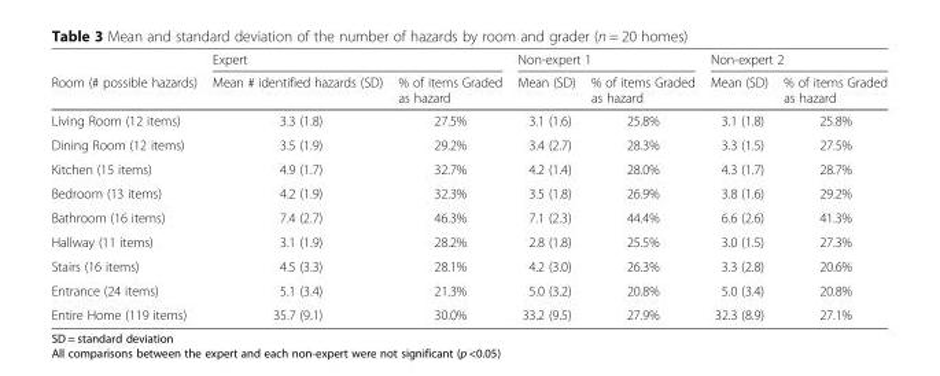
<table><thead><tr><td rowspan="2">Room (# possible hazards)</td><td colspan="2">Expert</td><td colspan="2">Non-expert 1</td><td colspan="2">Non-expert 2</td></tr><tr><td>Mean # identified hazards (SD)</td><td>% of items Graded as hazard</td><td>Mean (SD)</td><td>% of items Graded as hazard</td><td>Mean (SD)</td><td>% of items Graded as hazard</td></tr></thead><tbody><tr><td>Living Room (12 items)</td><td>3.3 (1.8)</td><td>27.5%</td><td>3.1 (1.6)</td><td>25.8%</td><td>3.1 (1.8)</td><td>25.8%</td></tr><tr><td>Dining Room (12 items)</td><td>3.5 (1.9)</td><td>29.2%</td><td>3.4 (2.7)</td><td>28.3%</td><td>3.3 (1.5)</td><td>27.5%</td></tr><tr><td>Kitchen (15 items)</td><td>4.9 (1.7)</td><td>32.7%</td><td>4.2 (1.4)</td><td>28.0%</td><td>4.3 (1.7)</td><td>28.7%</td></tr><tr><td>Bedroom (13 items)</td><td>4.2 (1.9)</td><td>32.3%</td><td>3.5 (1.8)</td><td>26.9%</td><td>3.8 (1.6)</td><td>29.2%</td></tr><tr><td>Bathroom (16 items)</td><td>7.4 (2.7)</td><td>46.3%</td><td>7.1 (2.3)</td><td>44.4%</td><td>6.6 (2.6)</td><td>41.3%</td></tr><tr><td>Hallway (11 items)</td><td>3.1 (1.9)</td><td>28.2%</td><td>2.8 (1.8)</td><td>25.5%</td><td>3.0 (1.5)</td><td>27.3%</td></tr><tr><td>Stairs (16 items)</td><td>4.5 (3.3)</td><td>28.1%</td><td>4.2 (3.0)</td><td>26.3%</td><td>3.3 (2.8)</td><td>20.6%</td></tr><tr><td>Entrance (24 items)</td><td>5.1 (3.4)</td><td>21.3%</td><td>5.0 (3.2)</td><td>20.8%</td><td>5.0 (3.4)</td><td>20.8%</td></tr><tr><td>Entire Home (119 items)</td><td>35.7 (9.1)</td><td>30.0%</td><td>33.2 (9.5)</td><td>27.9%</td><td>32.3 (8.9)</td><td>27.1%</td></tr></tbody></table>